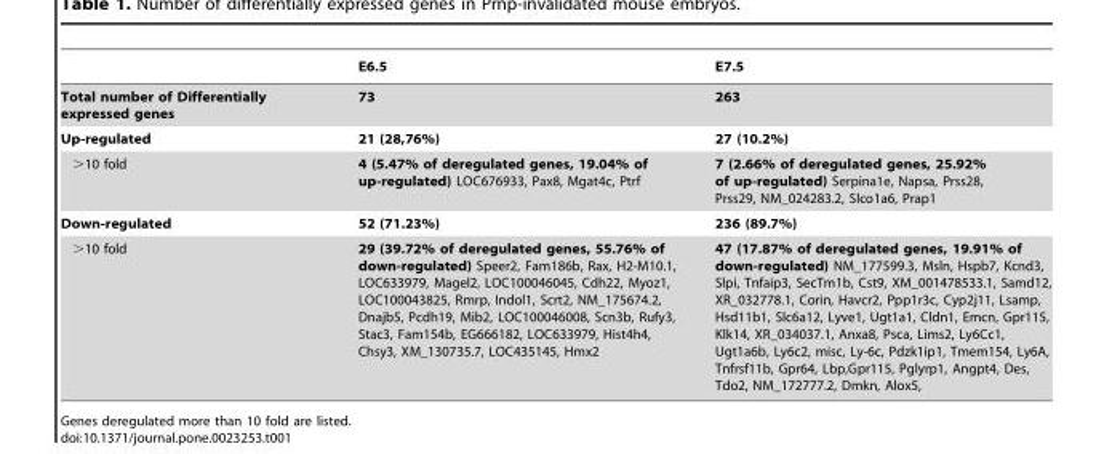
<table><thead><tr><td></td><td>E6.5</td><td>E7.5</td></tr></thead><tbody><tr><td>Total number of Differentially expressed genes</td><td>73</td><td>263</td></tr><tr><td>Up-regulated</td><td>21 (28,76%)</td><td>27 (10.2%)</td></tr><tr><td>&gt;10 fold</td><td>4 (5.47% of deregulated genes, 19.04% of up-regulated) LOC676933, Pax8, Mgat4c, Ptrf</td><td>7 (2.66% of deregulated genes, 25.92% of up-regulated) Serpina1e, Napsa, Prss28, Prss29, NM_024283.2, Slco1a6, Prap1</td></tr><tr><td>Down-regulated</td><td>52 (71.23%)</td><td>236 (89.7%)</td></tr><tr><td>&gt;10 fold</td><td>29 (39.72% of deregulated genes, 55.76% of down-regulated) Speer2, Fam186b, Rax, H2-M10.1, LOC633979, Magel2, LOC100046045, Cdh22, Myoz1, LOC100043825, Rmrp, Indol1, Scrt2, NM_175674.2, Dnajb5, Pcdh19, Mib2, LOC100046008, Scn3b, Rufy3, Stac3, Fam154b, EG666182, LOC633979, Hist4h4, Chsy3, XM_130735.7, LOC435145, Hmx2</td><td>47 (17.87% of deregulated genes, 19.91% of down-regulated) NM_177599.3, Msln, Hspb7, Kcnd3, Slpi, Tnfaip3, SecTm1b, Cst9, XM_001478533.1, Samd12, XR_032778.1, Corin, Havcr2, Ppp1r3c, Cyp2j11, Lsamp, Hsd11b1, Slc6a12, Lyve1, Ugt1a1, Cldn1, Emcn, Gpr115, Klk14, XR_034037.1, Anxa8, Psca, Lims2, Ly6Cc1, Ugt1a6b, Ly6c2, misc, Ly-6c, Pdzk1ip1, Tmem154, Ly6A, Tnfrsf11b, Gpr64, Lbp,Gpr115, Pglyrp1, Angpt4, Des, Tdo2, NM_172777.2, Dmkn, Alox5,</td></tr></tbody></table>